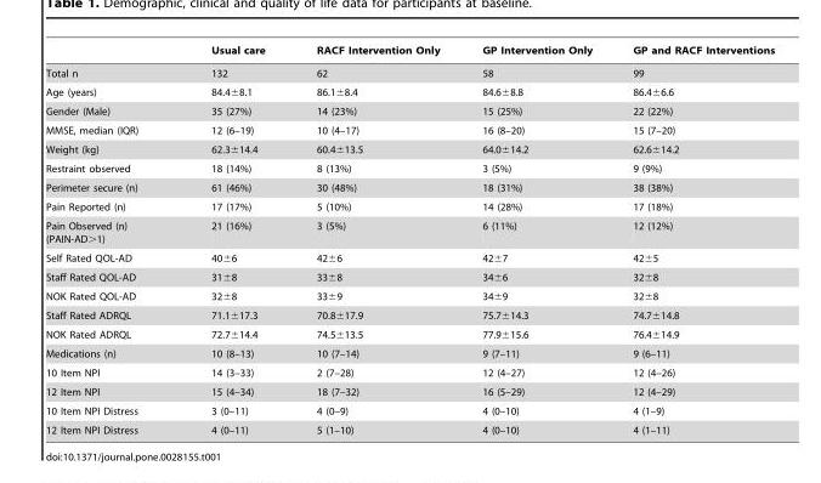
<table><thead><tr><td></td><td>Usual care</td><td>RACF Intervention Only</td><td>GP Intervention Only</td><td>GP and RACF Interventions</td></tr></thead><tbody><tr><td>Total n</td><td>132</td><td>62</td><td>58</td><td>99</td></tr><tr><td>Age (years)</td><td>84.4±8.1</td><td>86.1±8.4</td><td>84.6±8.8</td><td>86.4±6.6</td></tr><tr><td>Gender (Male)</td><td>35 (27%)</td><td>14 (23%)</td><td>15 (25%)</td><td>22 (22%)</td></tr><tr><td>MMSE, median (IQR)</td><td>12 (6–19)</td><td>10 (4–17)</td><td>16 (8–20)</td><td>15 (7–20)</td></tr><tr><td>Weight (kg)</td><td>62.3±14.4</td><td>60.4±13.5</td><td>64.0±14.2</td><td>62.6±14.2</td></tr><tr><td>Restraint observed</td><td>18 (14%)</td><td>8 (13%)</td><td>3 (5%)</td><td>9 (9%)</td></tr><tr><td>Perimeter secure (n)</td><td>61 (46%)</td><td>30 (48%)</td><td>18 (31%)</td><td>38 (38%)</td></tr><tr><td>Pain Reported (n)</td><td>17 (17%)</td><td>5 (10%)</td><td>14 (28%)</td><td>17 (18%)</td></tr><tr><td>Pain Observed (n) (PAIN-AD&gt;1)</td><td>21 (16%)</td><td>3 (5%)</td><td>6 (11%)</td><td>12 (12%)</td></tr><tr><td>Self Rated QOL-AD</td><td>40±6</td><td>42±6</td><td>42±7</td><td>42±5</td></tr><tr><td>Staff Rated QOL-AD</td><td>31±8</td><td>33±8</td><td>34±6</td><td>32±8</td></tr><tr><td>NOK Rated QOL-AD</td><td>32±8</td><td>33±9</td><td>34±9</td><td>32±8</td></tr><tr><td>Staff Rated ADRQL</td><td>71.1±17.3</td><td>70.8±17.9</td><td>75.7±14.3</td><td>74.7±14.8</td></tr><tr><td>NOK Rated ADRQL</td><td>72.7±14.4</td><td>74.5±13.5</td><td>77.9±15.6</td><td>76.4±14.9</td></tr><tr><td>Medications (n)</td><td>10 (8–13)</td><td>10 (7–14)</td><td>9 (7–11)</td><td>9 (6–11)</td></tr><tr><td>10 Item NPI</td><td>14 (3–33)</td><td>2 (7–28)</td><td>12 (4–27)</td><td>12 (4–26)</td></tr><tr><td>12 Item NPI</td><td>15 (4–34)</td><td>18 (7–32)</td><td>16 (5–29)</td><td>12 (4–29)</td></tr><tr><td>10 Item NPI Distress</td><td>3 (0–11)</td><td>4 (0–9)</td><td>4 (0–10)</td><td>4 (1–9)</td></tr><tr><td>12 Item NPI Distress</td><td>4 (0–11)</td><td>5 (1–10)</td><td>4 (0–10)</td><td>4 (1–11)</td></tr></tbody></table>